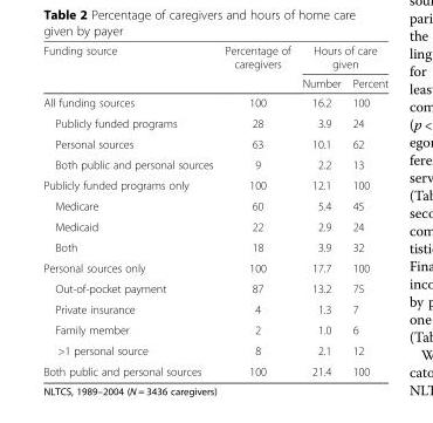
<table><thead><tr><td rowspan="2">Funding source</td><td rowspan="2">Percentage of caregivers</td><td colspan="2">Hours of care given</td></tr><tr><td>Number</td><td>Percent</td></tr></thead><tbody><tr><td>All funding sources</td><td>100</td><td>16.2</td><td>100</td></tr><tr><td>Publicly funded programs</td><td>28</td><td>3.9</td><td>24</td></tr><tr><td>Personal sources</td><td>63</td><td>10.1</td><td>62</td></tr><tr><td>Both public and personal sources</td><td>9</td><td>2.2</td><td>13</td></tr><tr><td>Publicly funded programs only</td><td>100</td><td>12.1</td><td>100</td></tr><tr><td>Medicare</td><td>60</td><td>5.4</td><td>45</td></tr><tr><td>Medicaid</td><td>22</td><td>2.9</td><td>24</td></tr><tr><td>Both</td><td>18</td><td>3.9</td><td>32</td></tr><tr><td>Personal sources only</td><td>100</td><td>17.7</td><td>100</td></tr><tr><td>Out-of-pocket payment</td><td>87</td><td>13.2</td><td>75</td></tr><tr><td>Private insurance</td><td>4</td><td>1.3</td><td>7</td></tr><tr><td>Family member</td><td>2</td><td>1.0</td><td>6</td></tr><tr><td>&gt;1 personal source</td><td>8</td><td>2.1</td><td>12</td></tr><tr><td>Both public and personal sources</td><td>100</td><td>21.4</td><td>100</td></tr></tbody></table>